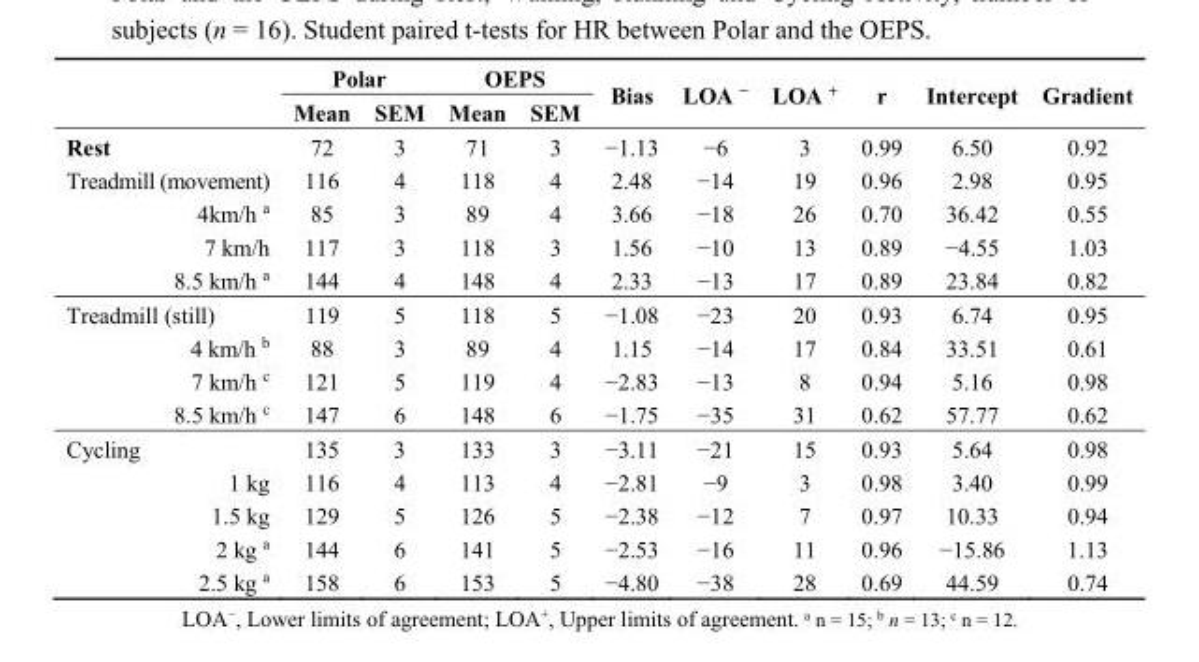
<table><thead><tr><td rowspan="2"></td><td colspan="2">Polar</td><td colspan="2">OEPS</td><td rowspan="2">Bias</td><td rowspan="2">LOA <sup>−</sup></td><td rowspan="2">LOA <sup>+</sup></td><td rowspan="2">r</td><td rowspan="2">Intercept</td><td rowspan="2">Gradient</td></tr><tr><td>Mean</td><td>SEM</td><td>Mean</td><td>SEM</td></tr></thead><tbody><tr><td>Rest</td><td>72</td><td>3</td><td>71</td><td>3</td><td>−1.13</td><td>−6</td><td>3</td><td>0.99</td><td>6.50</td><td>0.92</td></tr><tr><td>Treadmill (movement)</td><td>116</td><td>4</td><td>118</td><td>4</td><td>2.48</td><td>−14</td><td>19</td><td>0.96</td><td>2.98</td><td>0.95</td></tr><tr><td>4km/h <sup>a</sup></td><td>85</td><td>3</td><td>89</td><td>4</td><td>3.66</td><td>−18</td><td>26</td><td>0.70</td><td>36.42</td><td>0.55</td></tr><tr><td>7 km/h</td><td>117</td><td>3</td><td>118</td><td>3</td><td>1.56</td><td>−10</td><td>13</td><td>0.89</td><td>−4.55</td><td>1.03</td></tr><tr><td>8.5 km/h <sup>a</sup></td><td>144</td><td>4</td><td>148</td><td>4</td><td>2.33</td><td>−13</td><td>17</td><td>0.89</td><td>23.84</td><td>0.82</td></tr><tr><td>Treadmill (still)</td><td>119</td><td>5</td><td>118</td><td>5</td><td>−1.08</td><td>−23</td><td>20</td><td>0.93</td><td>6.74</td><td>0.95</td></tr><tr><td>4 km/h <sup>b</sup></td><td>88</td><td>3</td><td>89</td><td>4</td><td>1.15</td><td>−14</td><td>17</td><td>0.84</td><td>33.51</td><td>0.61</td></tr><tr><td>7 km/h <sup>c</sup></td><td>121</td><td>5</td><td>119</td><td>4</td><td>−2.83</td><td>−13</td><td>8</td><td>0.94</td><td>5.16</td><td>0.98</td></tr><tr><td>8.5 km/h <sup>c</sup></td><td>147</td><td>6</td><td>148</td><td>6</td><td>−1.75</td><td>−35</td><td>31</td><td>0.62</td><td>57.77</td><td>0.62</td></tr><tr><td>Cycling</td><td>135</td><td>3</td><td>133</td><td>3</td><td>−3.11</td><td>−21</td><td>15</td><td>0.93</td><td>5.64</td><td>0.98</td></tr><tr><td>1 kg</td><td>116</td><td>4</td><td>113</td><td>4</td><td>−2.81</td><td>−9</td><td>3</td><td>0.98</td><td>3.40</td><td>0.99</td></tr><tr><td>1.5 kg</td><td>129</td><td>5</td><td>126</td><td>5</td><td>−2.38</td><td>−12</td><td>7</td><td>0.97</td><td>10.33</td><td>0.94</td></tr><tr><td>2 kg <sup>a</sup></td><td>144</td><td>6</td><td>141</td><td>5</td><td>−2.53</td><td>−16</td><td>11</td><td>0.96</td><td>−15.86</td><td>1.13</td></tr><tr><td>2.5 kg <sup>a</sup></td><td>158</td><td>6</td><td>153</td><td>5</td><td>−4.80</td><td>−38</td><td>28</td><td>0.69</td><td>44.59</td><td>0.74</td></tr></tbody></table>